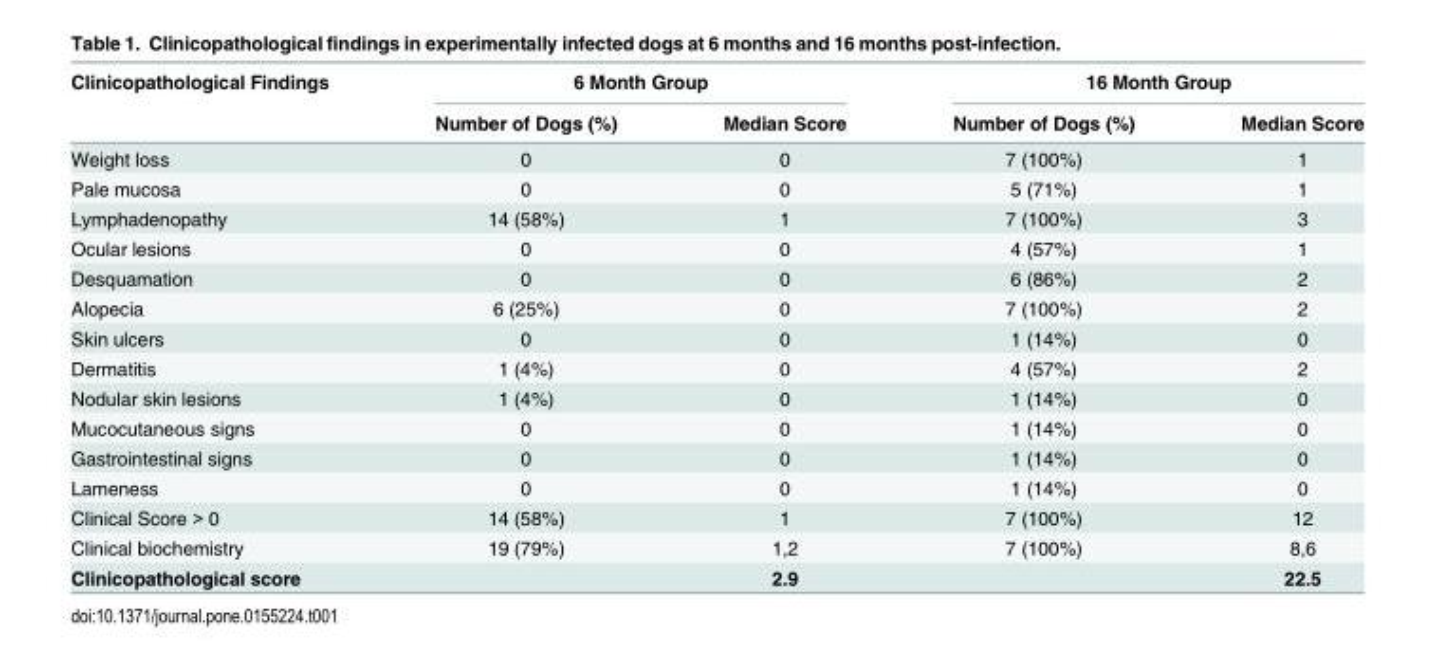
<table><thead><tr><td rowspan="2">Clinicopathological Findings</td><td colspan="2">6 Month Group</td><td colspan="2">16 Month Group</td></tr><tr><td>Number of Dogs (%)</td><td>Median Score</td><td>Number of Dogs (%)</td><td>Median Score</td></tr></thead><tbody><tr><td>Weight loss</td><td>0</td><td>0</td><td>7 (100%)</td><td>1</td></tr><tr><td>Pale mucosa</td><td>0</td><td>0</td><td>5 (71%)</td><td>1</td></tr><tr><td>Lymphadenopathy</td><td>14 (58%)</td><td>1</td><td>7 (100%)</td><td>3</td></tr><tr><td>Ocular lesions</td><td>0</td><td>0</td><td>4 (57%)</td><td>1</td></tr><tr><td>Desquamation</td><td>0</td><td>0</td><td>6 (86%)</td><td>2</td></tr><tr><td>Alopecia</td><td>6 (25%)</td><td>0</td><td>7 (100%)</td><td>2</td></tr><tr><td>Skin ulcers</td><td>0</td><td>0</td><td>1 (14%)</td><td>0</td></tr><tr><td>Dermatitis</td><td>1 (4%)</td><td>0</td><td>4 (57%)</td><td>2</td></tr><tr><td>Nodular skin lesions</td><td>1 (4%)</td><td>0</td><td>1 (14%)</td><td>0</td></tr><tr><td>Mucocutaneous signs</td><td>0</td><td>0</td><td>1 (14%)</td><td>0</td></tr><tr><td>Gastrointestinal signs</td><td>0</td><td>0</td><td>1 (14%)</td><td>0</td></tr><tr><td>Lameness</td><td>0</td><td>0</td><td>1 (14%)</td><td>0</td></tr><tr><td>Clinical Score &gt; 0</td><td>14 (58%)</td><td>1</td><td>7 (100%)</td><td>12</td></tr><tr><td>Clinical biochemistry</td><td>19 (79%)</td><td>1,2</td><td>7 (100%)</td><td>8,6</td></tr><tr><td>Clinicopathological score</td><td></td><td>2.9</td><td></td><td>22.5</td></tr></tbody></table>